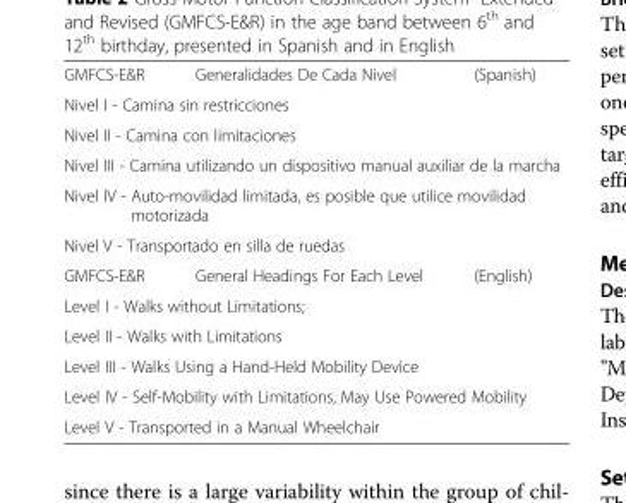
<table><tbody><tr><td>GMFCS-E&amp;R</td><td>Generalidades De Cada Nivel</td><td>(Spanish)</td></tr><tr><td colspan="3">Nivel I - Camina sin restricciones</td></tr><tr><td colspan="3">Nivel II - Camina con limitaciones</td></tr><tr><td colspan="3">Nivel III - Camina utilizando un dispositivo manual auxiliar de la marcha</td></tr><tr><td colspan="3">Nivel IV - Auto-movilidad limitada, es posible que utilice movilidad motorizada</td></tr><tr><td colspan="3">Nivel V - Transportado en silla de ruedas</td></tr><tr><td>GMFCS-E&amp;R</td><td>General Headings For Each Level</td><td>(English)</td></tr><tr><td colspan="3">Level I - Walks without Limitations;</td></tr><tr><td colspan="3">Level II - Walks with Limitations</td></tr><tr><td colspan="3">Level III - Walks Using a Hand-Held Mobility Device</td></tr><tr><td colspan="3">Level IV - Self-Mobility with Limitations, May Use Powered Mobility</td></tr><tr><td colspan="3">Level V - Transported in a Manual Wheelchair</td></tr></tbody></table>